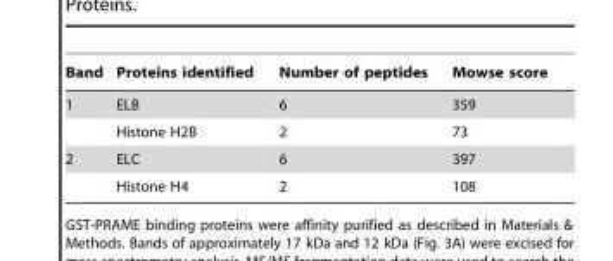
<table><thead><tr><td>Band</td><td>Proteins identified</td><td>Number of peptides</td><td>Mowse score</td></tr></thead><tbody><tr><td rowspan="2">1</td><td>ELB</td><td>6</td><td>359</td></tr><tr><td>Histone H2B</td><td>2</td><td>73</td></tr><tr><td rowspan="2">2</td><td>ELC</td><td>6</td><td>397</td></tr><tr><td>Histone H4</td><td>2</td><td>108</td></tr></tbody></table>